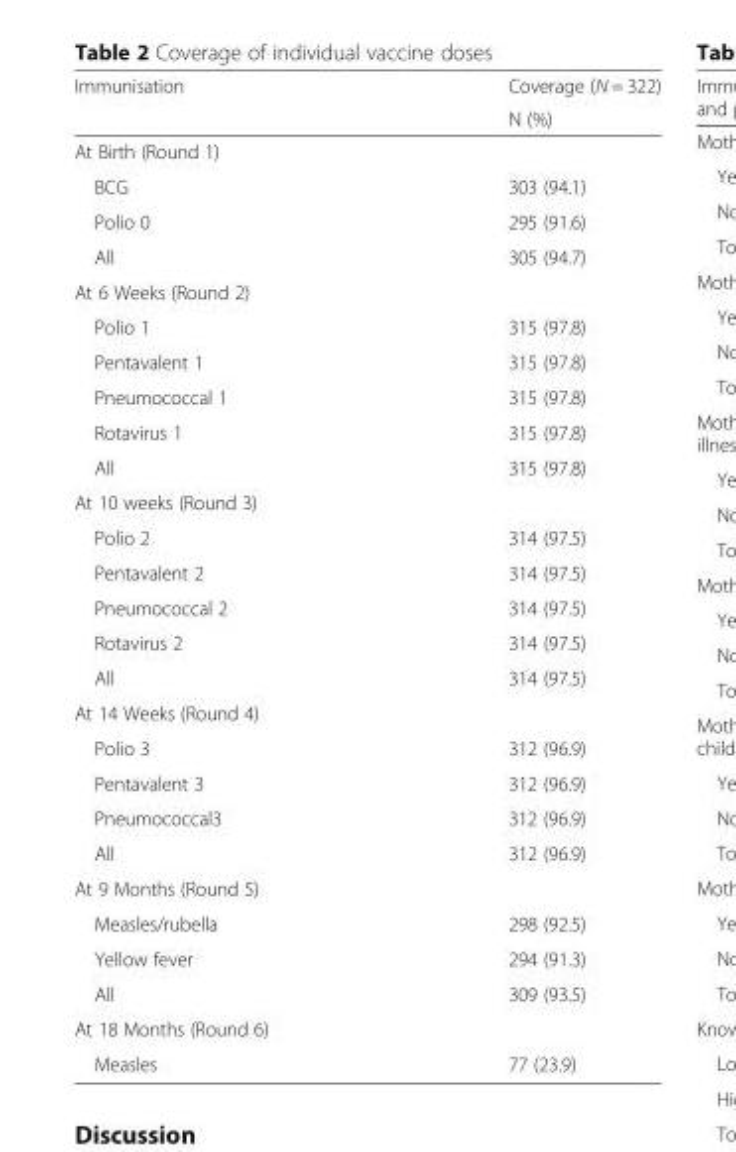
<table><thead><tr><td rowspan="2">Immunisation</td><td rowspan="2">Coverage (N = 322) N (%)</td></tr><tr></tr></thead><tbody><tr><td colspan="2">At Birth (Round 1)</td></tr><tr><td>BCG</td><td>303 (94.1)</td></tr><tr><td>Polio 0</td><td>295 (91.6)</td></tr><tr><td>All</td><td>305 (94.7)</td></tr><tr><td colspan="2">At 6 Weeks (Round 2)</td></tr><tr><td>Polio 1</td><td>315 (97.8)</td></tr><tr><td>Pentavalent 1</td><td>315 (97.8)</td></tr><tr><td>Pneumococcal 1</td><td>315 (97.8)</td></tr><tr><td>Rotavirus 1</td><td>315 (97.8)</td></tr><tr><td>All</td><td>315 (97.8)</td></tr><tr><td colspan="2">At 10 weeks (Round 3)</td></tr><tr><td>Polio 2</td><td>314 (97.5)</td></tr><tr><td>Pentavalent 2</td><td>314 (97.5)</td></tr><tr><td>Pneumococcal 2</td><td>314 (97.5)</td></tr><tr><td>Rotavirus 2</td><td>314 (97.5)</td></tr><tr><td>All</td><td>314 (97.5)</td></tr><tr><td colspan="2">At 14 Weeks (Round 4)</td></tr><tr><td>Polio 3</td><td>312 (96.9)</td></tr><tr><td>Pentavalent 3</td><td>312 (96.9)</td></tr><tr><td>Pneumococcal3</td><td>312 (96.9)</td></tr><tr><td>All</td><td>312 (96.9)</td></tr><tr><td colspan="2">At 9 Months (Round 5)</td></tr><tr><td>Measles/rubella</td><td>298 (92.5)</td></tr><tr><td>Yellow fever</td><td>294 (91.3)</td></tr><tr><td>All</td><td>309 (93.5)</td></tr><tr><td colspan="2">At 18 Months (Round 6)</td></tr><tr><td>Measles</td><td>77 (23.9)</td></tr></tbody></table>